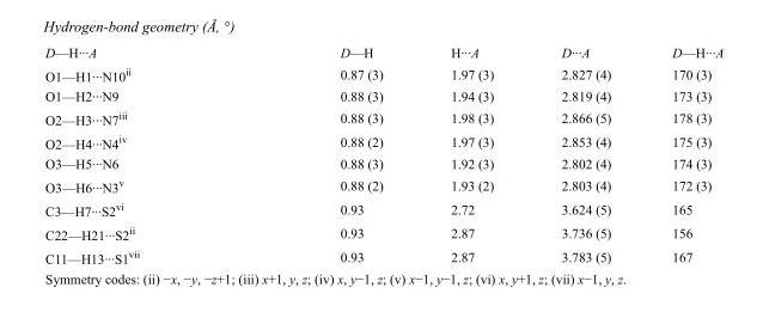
<table><tbody><tr><td>D—H···A</td><td>D—H</td><td>H···A</td><td>D···A</td><td>D—H···A</td></tr><tr><td>O1—H1···N10<sup>ii</sup></td><td>0.87 (3)</td><td>1.97 (3)</td><td>2.827 (4)</td><td>170 (3)</td></tr><tr><td>O1—H2···N9</td><td>0.88 (3)</td><td>1.94 (3)</td><td>2.819 (4)</td><td>173 (3)</td></tr><tr><td>O2—H3···N7<sup>iii</sup></td><td>0.88 (3)</td><td>1.98 (3)</td><td>2.866 (5)</td><td>178 (3)</td></tr><tr><td>O2—H4···N4<sup>iv</sup></td><td>0.88 (2)</td><td>1.97 (3)</td><td>2.853 (4)</td><td>175 (3)</td></tr><tr><td>O3—H5···N6</td><td>0.88 (3)</td><td>1.92 (3)</td><td>2.802 (4)</td><td>174 (3)</td></tr><tr><td>O3—H6···N3<sup>v</sup></td><td>0.88 (2)</td><td>1.93 (2)</td><td>2.803 (4)</td><td>172 (3)</td></tr><tr><td>C3—H7···S2<sup>vi</sup></td><td>0.93</td><td>2.72</td><td>3.624 (5)</td><td>165</td></tr><tr><td>C22—H21···S2<sup>ii</sup></td><td>0.93</td><td>2.87</td><td>3.736 (5)</td><td>156</td></tr><tr><td>C11—H13···S1<sup>vii</sup></td><td>0.93</td><td>2.87</td><td>3.783 (5)</td><td>167</td></tr></tbody></table>